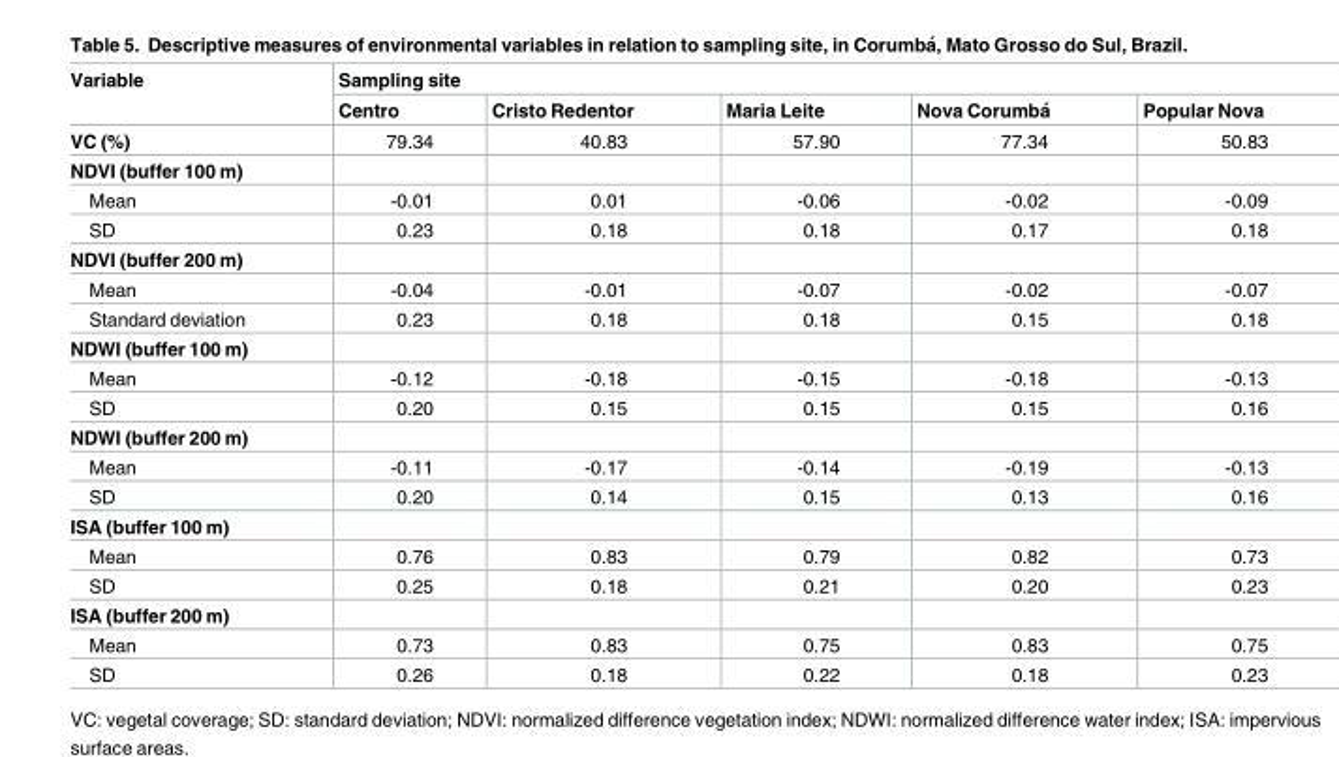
<table><thead><tr><td rowspan="2">Variable</td><td colspan="5">Sampling site</td></tr><tr><td>Centro</td><td>Cristo Redentor</td><td>Maria Leite</td><td>Nova Corumba´</td><td>Popular Nova</td></tr></thead><tbody><tr><td>VC (%)</td><td>79.34</td><td>40.83</td><td>57.90</td><td>77.34</td><td>50.83</td></tr><tr><td colspan="6">NDVI (buffer 100 m)</td></tr><tr><td>Mean</td><td>-0.01</td><td>0.01</td><td>-0.06</td><td>-0.02</td><td>-0.09</td></tr><tr><td>SD</td><td>0.23</td><td>0.18</td><td>0.18</td><td>0.17</td><td>0.18</td></tr><tr><td colspan="6">NDVI (buffer 200 m)</td></tr><tr><td>Mean</td><td>-0.04</td><td>-0.01</td><td>-0.07</td><td>-0.02</td><td>-0.07</td></tr><tr><td>Standard deviation</td><td>0.23</td><td>0.18</td><td>0.18</td><td>0.15</td><td>0.18</td></tr><tr><td colspan="6">NDWI (buffer 100 m)</td></tr><tr><td>Mean</td><td>-0.12</td><td>-0.18</td><td>-0.15</td><td>-0.18</td><td>-0.13</td></tr><tr><td>SD</td><td>0.20</td><td>0.15</td><td>0.15</td><td>0.15</td><td>0.16</td></tr><tr><td colspan="6">NDWI (buffer 200 m)</td></tr><tr><td>Mean</td><td>-0.11</td><td>-0.17</td><td>-0.14</td><td>-0.19</td><td>-0.13</td></tr><tr><td>SD</td><td>0.20</td><td>0.14</td><td>0.15</td><td>0.13</td><td>0.16</td></tr><tr><td colspan="6">ISA (buffer 100 m)</td></tr><tr><td>Mean</td><td>0.76</td><td>0.83</td><td>0.79</td><td>0.82</td><td>0.73</td></tr><tr><td>SD</td><td>0.25</td><td>0.18</td><td>0.21</td><td>0.20</td><td>0.23</td></tr><tr><td colspan="6">ISA (buffer 200 m)</td></tr><tr><td>Mean</td><td>0.73</td><td>0.83</td><td>0.75</td><td>0.83</td><td>0.75</td></tr><tr><td>SD</td><td>0.26</td><td>0.18</td><td>0.22</td><td>0.18</td><td>0.23</td></tr></tbody></table>